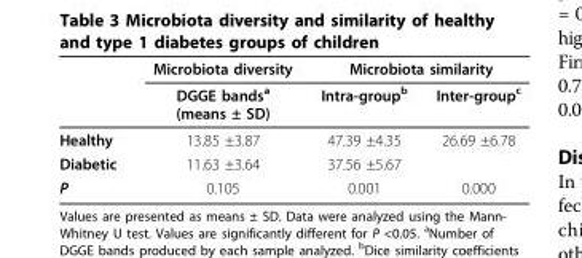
<table><thead><tr><td rowspan="2"></td><td rowspan="2">Microbiota diversity DGGE bands<sup>a</sup> (means ± SD)</td><td colspan="2">Microbiota similarity</td></tr><tr><td>Intra-group<sup>b</sup></td><td>Inter-group<sup>c</sup></td></tr></thead><tbody><tr><td>Healthy</td><td>13.85 ±3.87</td><td>47.39 ±4.35</td><td>26.69 ±6.78</td></tr><tr><td>Diabetic</td><td>11.63 ±3.64</td><td>37.56 ±5.67</td><td></td></tr><tr><td>P</td><td>0.105</td><td>0.001</td><td>0.000</td></tr></tbody></table>